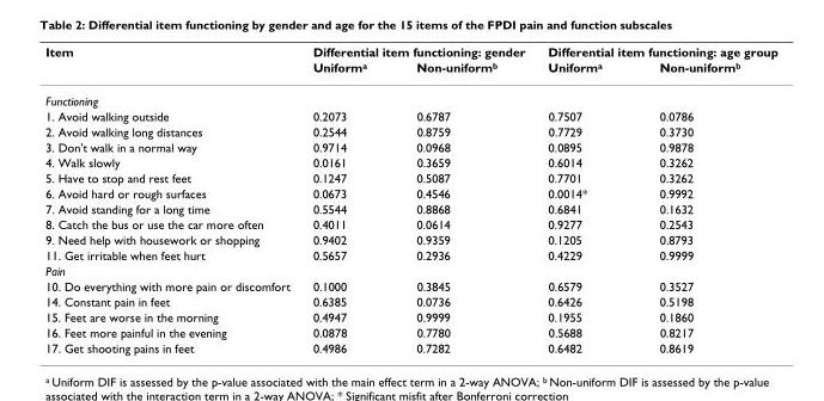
<table><thead><tr><td rowspan="2">Item</td><td colspan="2">Differential item functioning: gender</td><td colspan="2">Differential item functioning: age group</td></tr><tr><td>Uniform<sup>a</sup></td><td>Non-uniform<sup>b</sup></td><td>Uniform<sup>a</sup></td><td>Non-uniform<sup>b</sup></td></tr></thead><tbody><tr><td colspan="5">Functioning</td></tr><tr><td>1. Avoid walking outside</td><td>0.2073</td><td>0.6787</td><td>0.7507</td><td>0.0786</td></tr><tr><td>2. Avoid walking long distances</td><td>0.2544</td><td>0.8759</td><td>0.7729</td><td>0.3730</td></tr><tr><td>3. Don&#x27;t walk in a normal way</td><td>0.9714</td><td>0.0968</td><td>0.0895</td><td>0.9878</td></tr><tr><td>4. Walk slowly</td><td>0.0161</td><td>0.3659</td><td>0.6014</td><td>0.3262</td></tr><tr><td>5. Have to stop and rest feet</td><td>0.1247</td><td>0.5087</td><td>0.7701</td><td>0.3262</td></tr><tr><td>6. Avoid hard or rough surfaces</td><td>0.0673</td><td>0.4546</td><td>0.0014*</td><td>0.9992</td></tr><tr><td>7. Avoid standing for a long time</td><td>0.5544</td><td>0.8868</td><td>0.6841</td><td>0.1632</td></tr><tr><td>8. Catch the bus or use the car more often</td><td>0.4011</td><td>0.0614</td><td>0.9277</td><td>0.2543</td></tr><tr><td>9. Need help with housework or shopping</td><td>0.9402</td><td>0.9359</td><td>0.1205</td><td>0.8793</td></tr><tr><td>11. Get irritable when feet hurt</td><td>0.5657</td><td>0.2936</td><td>0.4229</td><td>0.9999</td></tr><tr><td colspan="5">Pain</td></tr><tr><td>10. Do everything with more pain or discomfort</td><td>0.1000</td><td>0.3845</td><td>0.6579</td><td>0.3527</td></tr><tr><td>14. Constant pain in feet</td><td>0.6385</td><td>0.0736</td><td>0.6426</td><td>0.5198</td></tr><tr><td>15. Feet are worse in the morning</td><td>0.4947</td><td>0.9999</td><td>0.1955</td><td>0.1860</td></tr><tr><td>16. Feet more painful in the evening</td><td>0.0878</td><td>0.7780</td><td>0.5688</td><td>0.8217</td></tr><tr><td>17. Get shooting pains in feet</td><td>0.4986</td><td>0.7282</td><td>0.6482</td><td>0.8619</td></tr></tbody></table>